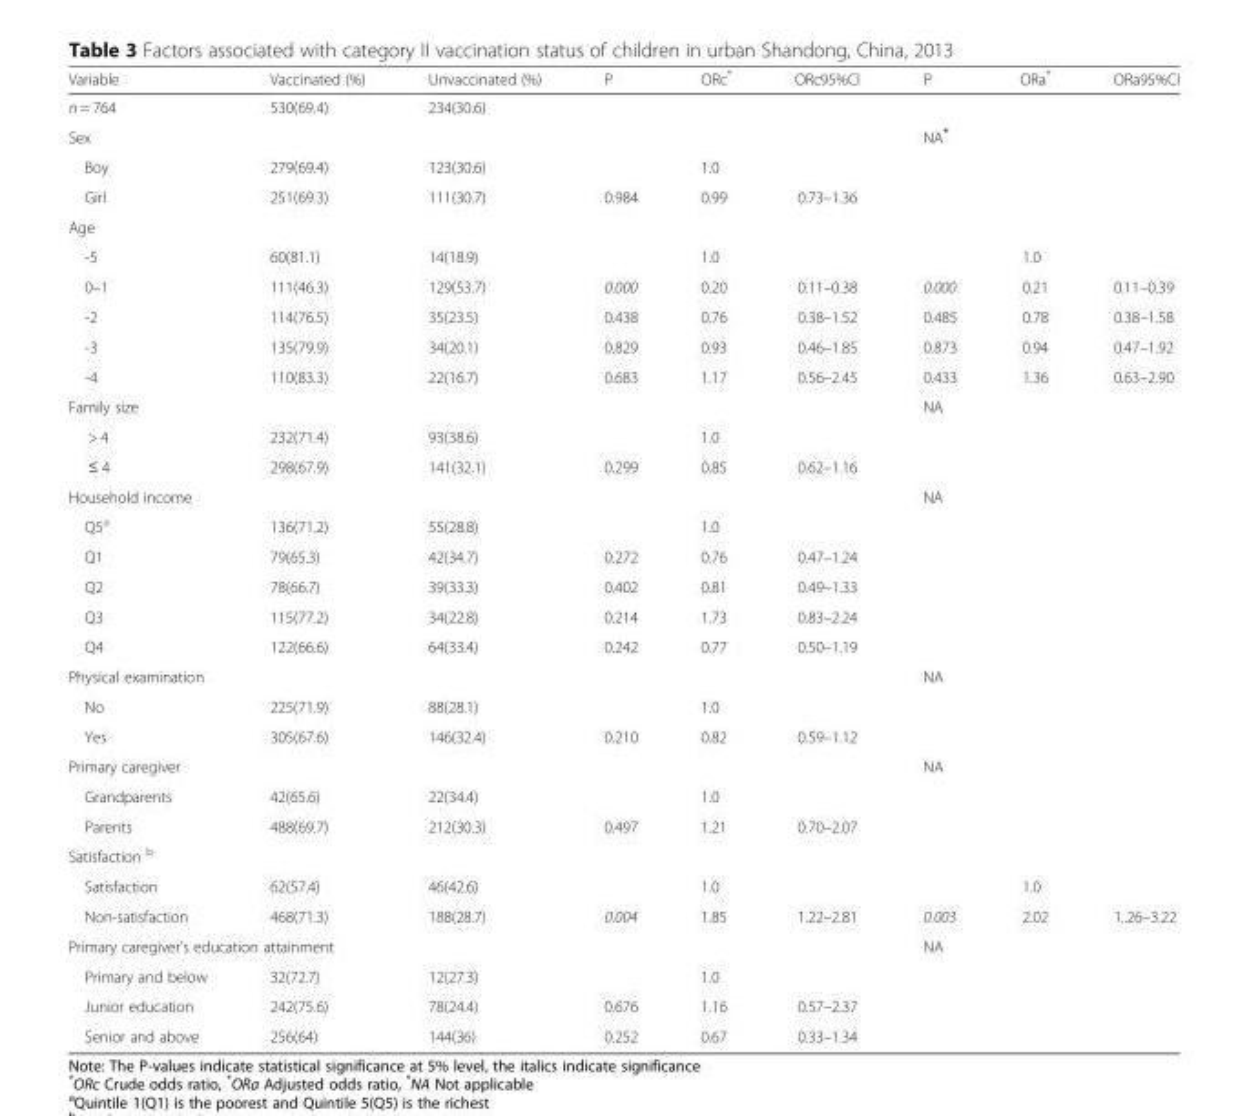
<table><thead><tr><td>Variable</td><td>Vaccinated (%)</td><td>Unvaccinated (%)</td><td>P</td><td>ORc*</td><td>ORc95%CI</td><td>P</td><td>ORa*</td><td>ORa95%CI</td></tr></thead><tbody><tr><td>n = 764</td><td>530(69.4)</td><td>234(30.6)</td><td></td><td></td><td></td><td></td><td></td><td></td></tr><tr><td>Sex</td><td></td><td></td><td></td><td></td><td></td><td>NA*</td><td></td><td></td></tr><tr><td>Boy</td><td>279(69.4)</td><td>123(30.6)</td><td></td><td>1.0</td><td></td><td></td><td></td><td></td></tr><tr><td>Girl</td><td>251(69.3)</td><td>111(30.7)</td><td>0.984</td><td>0.99</td><td>0.73–1.36</td><td></td><td></td><td></td></tr><tr><td colspan="9">Age</td></tr><tr><td>-5</td><td>60(81.1)</td><td>14(18.9)</td><td></td><td>1.0</td><td></td><td></td><td>1.0</td><td></td></tr><tr><td>0–1</td><td>111(46.3)</td><td>129(53.7)</td><td>0.000</td><td>0.20</td><td>0.11–0.38</td><td>0.000</td><td>0.21</td><td>0.11–0.39</td></tr><tr><td>-2</td><td>114(76.5)</td><td>35(23.5)</td><td>0.438</td><td>0.76</td><td>0.38–1.52</td><td>0.485</td><td>0.78</td><td>0.38–1.58</td></tr><tr><td>-3</td><td>135(79.9)</td><td>34(20.1)</td><td>0.829</td><td>0.93</td><td>0.46–1.85</td><td>0.873</td><td>0.94</td><td>0.47–1.92</td></tr><tr><td>-4</td><td>110(83.3)</td><td>22(16.7)</td><td>0.683</td><td>1.17</td><td>0.56–2.45</td><td>0.433</td><td>1.36</td><td>0.63–2.90</td></tr><tr><td>Family size</td><td></td><td></td><td></td><td></td><td></td><td>NA</td><td></td><td></td></tr><tr><td>&gt; 4</td><td>232(71.4)</td><td>93(38.6)</td><td></td><td>1.0</td><td></td><td></td><td></td><td></td></tr><tr><td>≤ 4</td><td>298(67.9)</td><td>141(32.1)</td><td>0.299</td><td>0.85</td><td>0.62–1.16</td><td></td><td></td><td></td></tr><tr><td>Household income</td><td></td><td></td><td></td><td></td><td></td><td>NA</td><td></td><td></td></tr><tr><td>Q5<sup>a</sup></td><td>136(71.2)</td><td>55(28.8)</td><td></td><td>1.0</td><td></td><td></td><td></td><td></td></tr><tr><td>Q1</td><td>79(65.3)</td><td>42(34.7)</td><td>0.272</td><td>0.76</td><td>0.47–1.24</td><td></td><td></td><td></td></tr><tr><td>Q2</td><td>78(66.7)</td><td>39(33.3)</td><td>0.402</td><td>0.81</td><td>0.49–1.33</td><td></td><td></td><td></td></tr><tr><td>Q3</td><td>115(77.2)</td><td>34(22.8)</td><td>0.214</td><td>1.73</td><td>0.83–2.24</td><td></td><td></td><td></td></tr><tr><td>Q4</td><td>122(66.6)</td><td>64(33.4)</td><td>0.242</td><td>0.77</td><td>0.50–1.19</td><td></td><td></td><td></td></tr><tr><td>Physical examination</td><td></td><td></td><td></td><td></td><td></td><td>NA</td><td></td><td></td></tr><tr><td>No</td><td>225(71.9)</td><td>88(28.1)</td><td></td><td>1.0</td><td></td><td></td><td></td><td></td></tr><tr><td>Yes</td><td>305(67.6)</td><td>146(32.4)</td><td>0.210</td><td>0.82</td><td>0.59–1.12</td><td></td><td></td><td></td></tr><tr><td>Primary caregiver</td><td></td><td></td><td></td><td></td><td></td><td>NA</td><td></td><td></td></tr><tr><td>Grandparents</td><td>42(65.6)</td><td>22(34.4)</td><td></td><td>1.0</td><td></td><td></td><td></td><td></td></tr><tr><td>Parents</td><td>488(69.7)</td><td>212(30.3)</td><td>0.497</td><td>1.21</td><td>0.70–2.07</td><td></td><td></td><td></td></tr><tr><td colspan="9">Satisfaction <sup>b</sup></td></tr><tr><td>Satisfaction</td><td>62(57.4)</td><td>46(42.6)</td><td></td><td>1.0</td><td></td><td></td><td>1.0</td><td></td></tr><tr><td>Non-satisfaction</td><td>468(71.3)</td><td>188(28.7)</td><td>0.004</td><td>1.85</td><td>1.22–2.81</td><td>0.003</td><td>2.02</td><td>1..26–3.22</td></tr><tr><td colspan="3">Primary caregiver’s education attainment</td><td></td><td></td><td></td><td>NA</td><td></td><td></td></tr><tr><td>Primary and below</td><td>32(72.7)</td><td>12(27.3)</td><td></td><td>1.0</td><td></td><td></td><td></td><td></td></tr><tr><td>Junior education</td><td>242(75.6)</td><td>78(24.4)</td><td>0.676</td><td>1.16</td><td>0.57–2.37</td><td></td><td></td><td></td></tr><tr><td>Senior and above</td><td>256(64)</td><td>144(36)</td><td>0.252</td><td>0.67</td><td>0.33–1.34</td><td></td><td></td><td></td></tr></tbody></table>